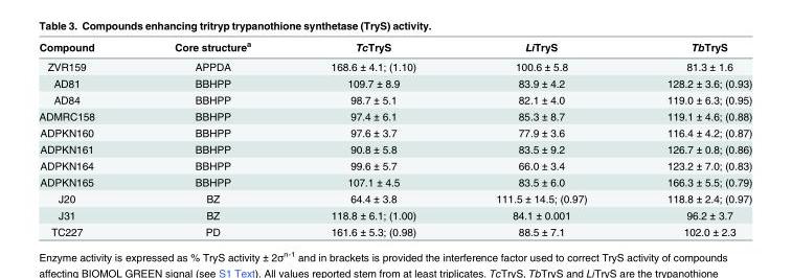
<table><thead><tr><td>Compound</td><td>Core structure<sup>a</sup></td><td>TcTryS</td><td>LiTryS</td><td>TbTryS</td></tr></thead><tbody><tr><td>ZVR159</td><td>APPDA</td><td>168.6 ± 4.1; (1.10)</td><td>100.6 ± 5.8</td><td>81.3 ± 1.6</td></tr><tr><td>AD81</td><td>BBHPP</td><td>109.7 ± 8.9</td><td>83.9 ± 4.2</td><td>128.2 ± 3.6; (0.93)</td></tr><tr><td>AD84</td><td>BBHPP</td><td>98.7 ± 5.1</td><td>82.1 ± 4.0</td><td>119.0 ± 6.3; (0.95)</td></tr><tr><td>ADMRC158</td><td>BBHPP</td><td>97.4 ± 6.1</td><td>85.3 ± 8.7</td><td>119.1 ± 4.6; (0.88)</td></tr><tr><td>ADPKN160</td><td>BBHPP</td><td>97.6 ± 3.7</td><td>77.9 ± 3.6</td><td>116.4 ± 4.2; (0.87)</td></tr><tr><td>ADPKN161</td><td>BBHPP</td><td>90.8 ± 5.8</td><td>83.5 ± 9.2</td><td>126.7 ± 0.8; (0.86)</td></tr><tr><td>ADPKN164</td><td>BBHPP</td><td>99.6 ± 5.7</td><td>66.0 ± 3.4</td><td>123.2 ± 7.0; (0.83)</td></tr><tr><td>ADPKN165</td><td>BBHPP</td><td>107.1 ± 4.5</td><td>83.5 ± 6.0</td><td>166.3 ± 5.5; (0.79)</td></tr><tr><td>J20</td><td>BZ</td><td>64.4 ± 3.8</td><td>111.5 ± 14.5; (0.97)</td><td>118.8 ± 2.4; (0.97)</td></tr><tr><td>J31</td><td>BZ</td><td>118.8 ± 6.1; (1.00)</td><td>84.1 ± 0.001</td><td>96.2 ± 3.7</td></tr><tr><td>TC227</td><td>PD</td><td>161.6 ± 5.3; (0.98)</td><td>88.5 ± 7.1</td><td>102.0 ± 2.3</td></tr></tbody></table>